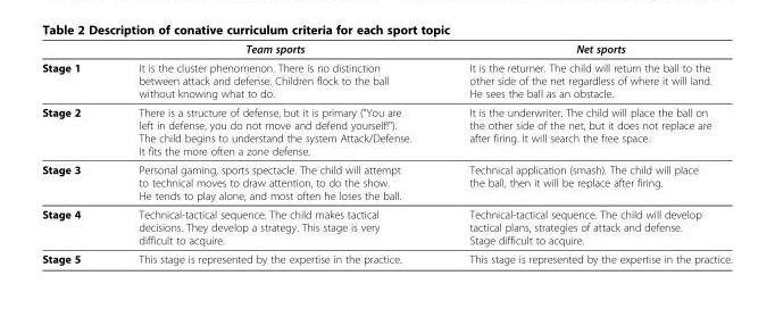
<table><thead><tr><td></td><td>Team sports</td><td>Net sports</td></tr></thead><tbody><tr><td>Stage 1</td><td>It is the cluster phenomenon. There is no distinction between attack and defense. Children flock to the ball without knowing what to do.</td><td>It is the returner. The child will return the ball to the other side of the net regardless of where it will land. He sees the ball as an obstacle.</td></tr><tr><td>Stage 2</td><td>There is a structure of defense, but it is primary (&quot;You are left in defense, you do not move and defend yourself!&quot;). The child begins to understand the system Attack/Defense. It fits the more often a zone defense.</td><td>It is the underwriter. The child will place the ball on the other side of the net, but it does not replace are after firing. It will search the free space.</td></tr><tr><td>Stage 3</td><td>Personal gaming, sports spectacle. The child will attempt to technical moves to draw attention, to do the show. He tends to play alone, and most often he loses the ball.</td><td>Technical application (smash). The child will place the ball, then it will be replace after firing.</td></tr><tr><td>Stage 4</td><td>Technical-tactical sequence. The child makes tactical decisions. They develop a strategy. This stage is very difficult to acquire.</td><td>Technical-tactical sequence. The child will develop tactical plans, strategies of attack and defense. Stage difficult to acquire.</td></tr><tr><td>Stage 5</td><td>This stage is represented by the expertise in the practice.</td><td>This stage is represented by the expertise in the practice.</td></tr></tbody></table>